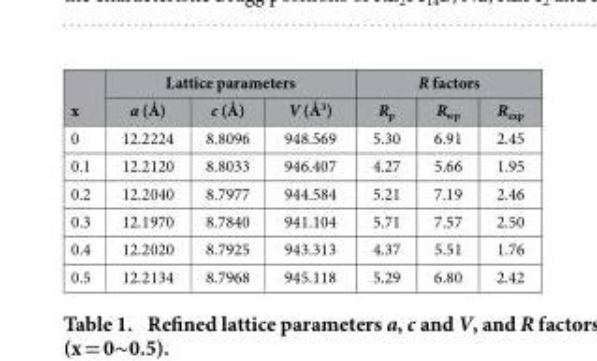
<table><thead><tr><td rowspan="2">x</td><td colspan="3">Lattice parameters</td><td colspan="3">R factors</td></tr><tr><td>a (Å)</td><td>c (Å)</td><td>V (Å<sup>3</sup>)</td><td>R<sub>p</sub></td><td>R<sub>wp</sub></td><td>R<sub>exp</sub></td></tr></thead><tbody><tr><td>0</td><td>12.2224</td><td>8.8096</td><td>948.569</td><td>5.30</td><td>6.91</td><td>2.45</td></tr><tr><td>0.1</td><td>12.2120</td><td>8.8033</td><td>946.407</td><td>4.27</td><td>5.66</td><td>1.95</td></tr><tr><td>0.2</td><td>12.2040</td><td>8.7977</td><td>944.584</td><td>5.21</td><td>7.19</td><td>2.46</td></tr><tr><td>0.3</td><td>12.1970</td><td>8.7840</td><td>941.104</td><td>5.71</td><td>7.57</td><td>2.50</td></tr><tr><td>0.4</td><td>12.2020</td><td>8.7925</td><td>943.313</td><td>4.37</td><td>5.51</td><td>1.76</td></tr><tr><td>0.5</td><td>12.2134</td><td>8.7968</td><td>945.118</td><td>5.29</td><td>6.80</td><td>2.42</td></tr></tbody></table>